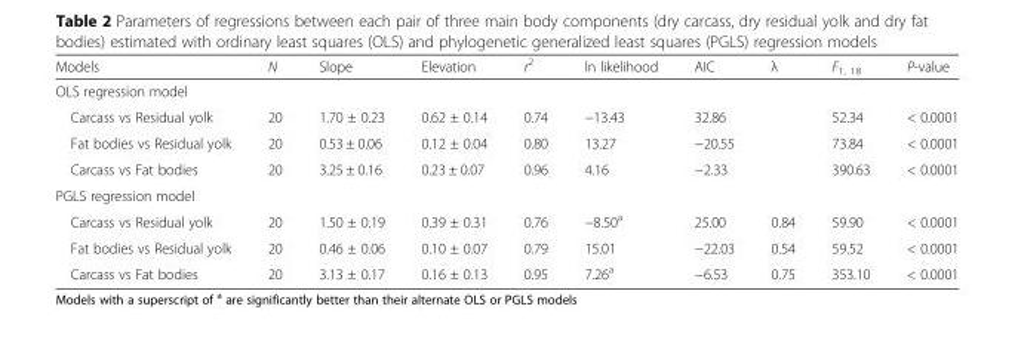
<table><thead><tr><td>Models</td><td>N</td><td>Slope</td><td>Elevation</td><td>r<sup>2</sup></td><td>ln likelihood</td><td>AIC</td><td>λ</td><td>F<sub>1, 18</sub></td><td>P-value</td></tr></thead><tbody><tr><td colspan="10">OLS regression model</td></tr><tr><td>Carcass vs Residual yolk</td><td>20</td><td>1.70 ± 0.23</td><td>0.62 ± 0.14</td><td>0.74</td><td>−13.43</td><td>32.86</td><td></td><td>52.34</td><td>&lt; 0.0001</td></tr><tr><td>Fat bodies vs Residual yolk</td><td>20</td><td>0.53 ± 0.06</td><td>0.12 ± 0.04</td><td>0.80</td><td>13.27</td><td>−20.55</td><td></td><td>73.84</td><td>&lt; 0.0001</td></tr><tr><td>Carcass vs Fat bodies</td><td>20</td><td>3.25 ± 0.16</td><td>0.23 ± 0.07</td><td>0.96</td><td>4.16</td><td>−2.33</td><td></td><td>390.63</td><td>&lt; 0.0001</td></tr><tr><td colspan="10">PGLS regression model</td></tr><tr><td>Carcass vs Residual yolk</td><td>20</td><td>1.50 ± 0.19</td><td>0.39 ± 0.31</td><td>0.76</td><td>−8.50<sup>a</sup></td><td>25.00</td><td>0.84</td><td>59.90</td><td>&lt; 0.0001</td></tr><tr><td>Fat bodies vs Residual yolk</td><td>20</td><td>0.46 ± 0.06</td><td>0.10 ± 0.07</td><td>0.79</td><td>15.01</td><td>−22.03</td><td>0.54</td><td>59.52</td><td>&lt; 0.0001</td></tr><tr><td>Carcass vs Fat bodies</td><td>20</td><td>3.13 ± 0.17</td><td>0.16 ± 0.13</td><td>0.95</td><td>7.26<sup>a</sup></td><td>−6.53</td><td>0.75</td><td>353.10</td><td>&lt; 0.0001</td></tr></tbody></table>